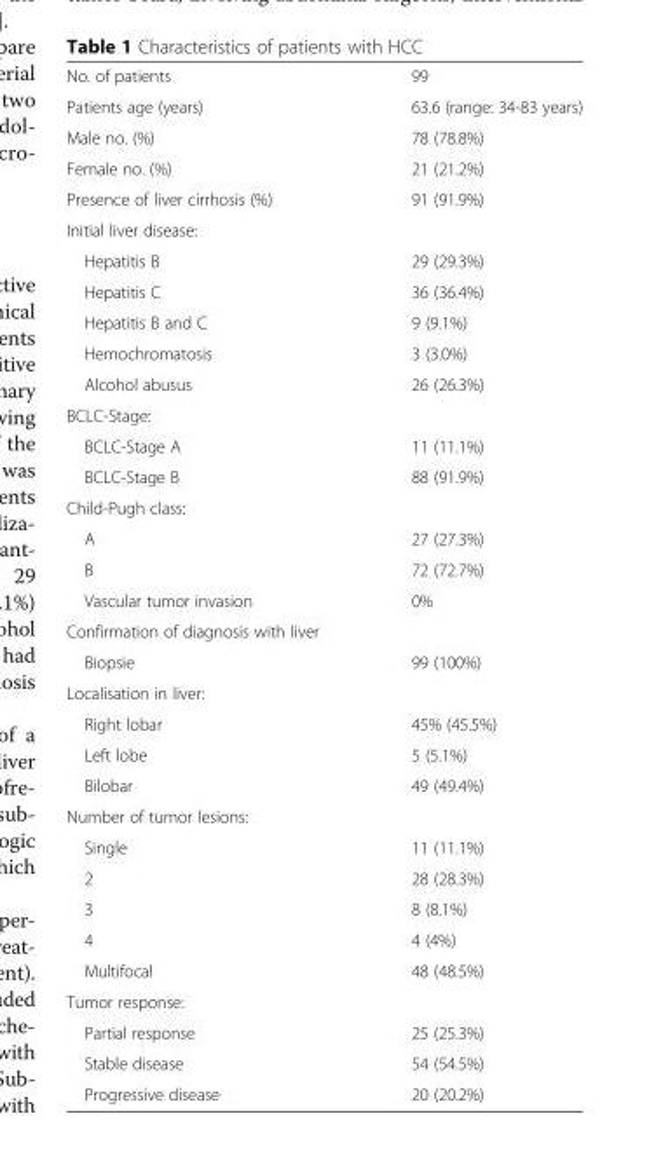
<table><tbody><tr><td>No. of patients</td><td>99</td></tr><tr><td>Patients age (years)</td><td>63.6 (range: 34-83 years)</td></tr><tr><td>Male no. (%)</td><td>78 (78.8%)</td></tr><tr><td>Female no. (%)</td><td>21 (21.2%)</td></tr><tr><td>Presence of liver cirrhosis (%)</td><td>91 (91.9%)</td></tr><tr><td colspan="2">Initial liver disease:</td></tr><tr><td>Hepatitis B</td><td>29 (29.3%)</td></tr><tr><td>Hepatitis C</td><td>36 (36.4%)</td></tr><tr><td>Hepatitis B and C</td><td>9 (9.1%)</td></tr><tr><td>Hemochromatosis</td><td>3 (3.0%)</td></tr><tr><td>Alcohol abusus</td><td>26 (26.3%)</td></tr><tr><td colspan="2">BCLC-Stage:</td></tr><tr><td>BCLC-Stage A</td><td>11 (11.1%)</td></tr><tr><td>BCLC-Stage B</td><td>88 (91.9%)</td></tr><tr><td colspan="2">Child-Pugh class:</td></tr><tr><td>A</td><td>27 (27.3%)</td></tr><tr><td>B</td><td>72 (72.7%)</td></tr><tr><td>Vascular tumor invasion</td><td>0%</td></tr><tr><td colspan="2">Confirmation of diagnosis with liver</td></tr><tr><td>Biopsie</td><td>99 (100%)</td></tr><tr><td colspan="2">Localisation in liver:</td></tr><tr><td>Right lobar</td><td>45% (45.5%)</td></tr><tr><td>Left lobe</td><td>5 (5.1%)</td></tr><tr><td>Bilobar</td><td>49 (49.4%)</td></tr><tr><td colspan="2">Number of tumor lesions:</td></tr><tr><td>Single</td><td>11 (11.1%)</td></tr><tr><td>2</td><td>28 (28.3%)</td></tr><tr><td>3</td><td>8 (8.1%)</td></tr><tr><td>4</td><td>4 (4%)</td></tr><tr><td>Multifocal</td><td>48 (48.5%)</td></tr><tr><td colspan="2">Tumor response:</td></tr><tr><td>Partial response</td><td>25 (25.3%)</td></tr><tr><td>Stable disease</td><td>54 (54.5%)</td></tr><tr><td>Progressive disease</td><td>20 (20.2%)</td></tr></tbody></table>